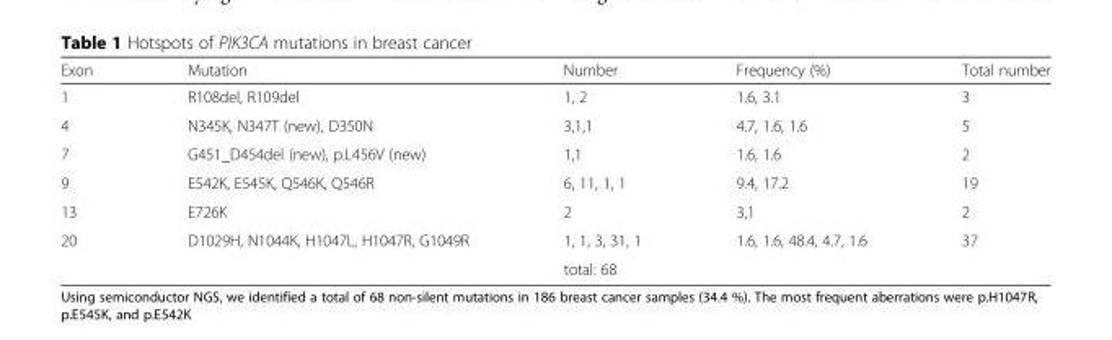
<table><thead><tr><td>Exon</td><td>Mutation</td><td>Number</td><td>Frequency (%)</td><td>Total number</td></tr></thead><tbody><tr><td>1</td><td>R108del, R109del</td><td>1, 2</td><td>1.6, 3.1</td><td>3</td></tr><tr><td>4</td><td>N345K, N347T (new), D350N</td><td>3,1,1</td><td>4.7, 1.6, 1.6</td><td>5</td></tr><tr><td>7</td><td>G451_D454del (new), p.L456V (new)</td><td>1,1</td><td>1.6, 1.6</td><td>2</td></tr><tr><td>9</td><td>E542K, E545K, Q546K, Q546R</td><td>6, 11, 1, 1</td><td>9.4, 17.2</td><td>19</td></tr><tr><td>13</td><td>E726K</td><td>2</td><td>3,1</td><td>2</td></tr><tr><td rowspan="2">20</td><td>D1029H, N1044K, H1047L, H1047R, G1049R</td><td>1, 1, 3, 31, 1</td><td>1.6, 1.6, 48.4, 4.7, 1.6</td><td>37</td></tr><tr><td></td><td>total: 68</td><td></td><td></td></tr></tbody></table>